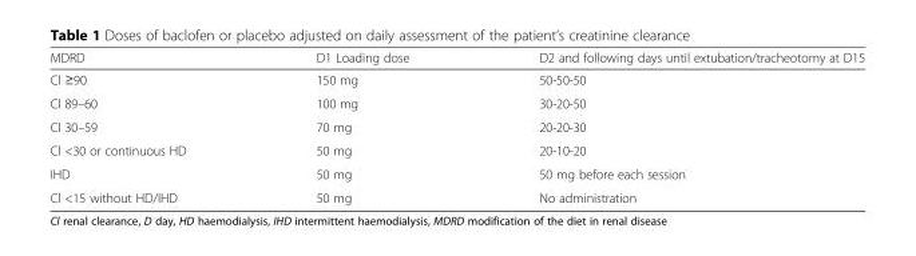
<table><thead><tr><td>MDRD</td><td>D1 Loading dose</td><td>D2 and following days until extubation/tracheotomy at D15</td></tr></thead><tbody><tr><td>Cl ≥90</td><td>150 mg</td><td>50-50-50</td></tr><tr><td>Cl 89–60</td><td>100 mg</td><td>30-20-50</td></tr><tr><td>Cl 30–59</td><td>70 mg</td><td>20-20-30</td></tr><tr><td>Cl &lt;30 or continuous HD</td><td>50 mg</td><td>20-10-20</td></tr><tr><td>IHD</td><td>50 mg</td><td>50 mg before each session</td></tr><tr><td>Cl &lt;15 without HD/IHD</td><td>50 mg</td><td>No administration</td></tr></tbody></table>